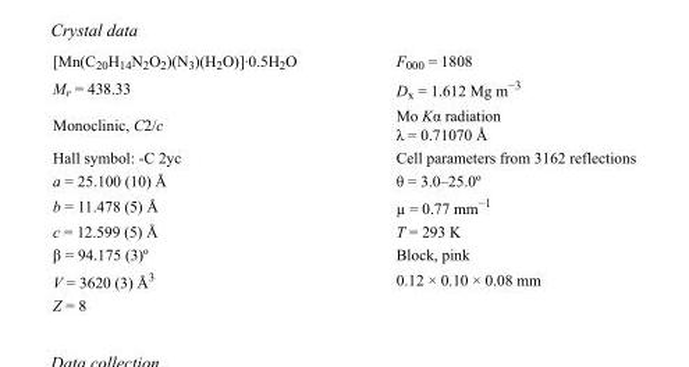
<table><tbody><tr><td>[Mn(C<sub>20</sub>H<sub>14</sub>N<sub>2</sub>O<sub>2</sub>)(N<sub>3</sub>)(H<sub>2</sub>O)]·0.5H<sub>2</sub>O</td><td>F000 = 1808</td></tr><tr><td>M<sub>r</sub> = 438.33</td><td>D<sub>x</sub> = 1.612 Mg m<sup>−3</sup></td></tr><tr><td>Monoclinic, C2/c</td><td>Mo Kα radiation λ = 0.71070 Å</td></tr><tr><td>Hall symbol: -C 2yc</td><td>Cell parameters from 3162 reflections</td></tr><tr><td>a = 25.100 (10) Å</td><td>θ = 3.0–25.0º</td></tr><tr><td>b = 11.478 (5) Å</td><td>µ = 0.77 mm<sup>−1</sup></td></tr><tr><td>c = 12.599 (5) Å</td><td>T = 293 K</td></tr><tr><td>β = 94.175 (3)º</td><td>Block, pink</td></tr><tr><td>V = 3620 (3) Å<sup>3</sup></td><td>0.12 × 0.10 × 0.08 mm</td></tr><tr><td>Z = 8</td><td></td></tr></tbody></table>